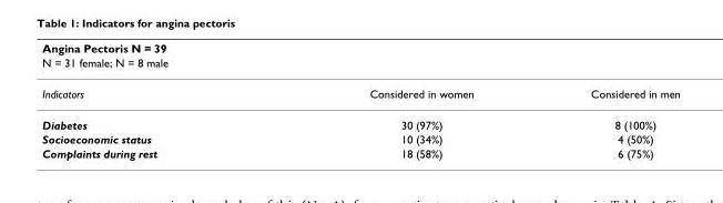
<table><thead><tr><td rowspan="2">Angina Pectoris N = 39 N = 31 female; N = 8 male</td><td rowspan="2"></td><td rowspan="2"></td></tr><tr></tr></thead><tbody><tr><td>Indicators</td><td>Considered in women</td><td>Considered in men</td></tr><tr><td>Diabetes</td><td>30 (97%)</td><td>8 (100%)</td></tr><tr><td>Socioeconomic status</td><td>10 (34%)</td><td>4 (50%)</td></tr><tr><td>Complaints during rest</td><td>18 (58%)</td><td>6 (75%)</td></tr></tbody></table>